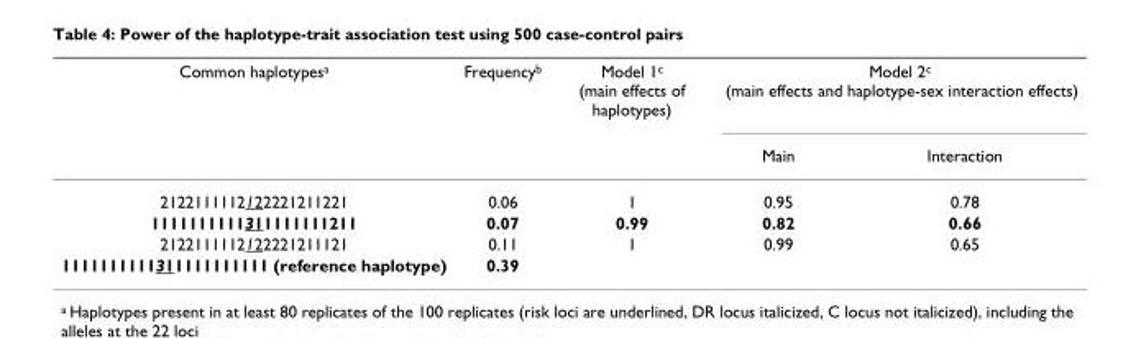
<table><thead><tr><td rowspan="2">Common haplotypes<sup>a</sup></td><td rowspan="2">Frequency<sup>b</sup></td><td rowspan="2">Model 1<sup>c</sup> (main effects of haplotypes)</td><td colspan="2">Model 2<sup>c</sup> (main effects and haplotype-sex interaction effects)</td></tr><tr><td>Main</td><td>Interaction</td></tr></thead><tbody><tr><td>2122111112122221211221</td><td>0.06</td><td>1</td><td>0.95</td><td>0.78</td></tr><tr><td>1111111111311111111211</td><td>0.07</td><td>0.99</td><td>0.82</td><td>0.66</td></tr><tr><td>2122111112122221211121</td><td>0.11</td><td>1</td><td>0.99</td><td>0.65</td></tr><tr><td>1111111111311111111111 (reference haplotype)</td><td>0.39</td><td></td><td></td><td></td></tr></tbody></table>